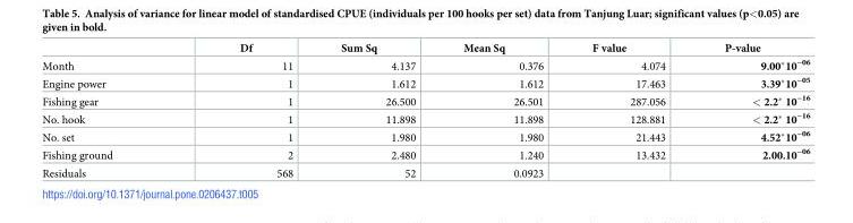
<table><thead><tr><td></td><td>Df</td><td>Sum Sq</td><td>Mean Sq</td><td>F value</td><td>P-value</td></tr></thead><tbody><tr><td>Month</td><td>11</td><td>4.137</td><td>0.376</td><td>4.074</td><td>9.00*10<sup>−06</sup></td></tr><tr><td>Engine power</td><td>1</td><td>1.612</td><td>1.612</td><td>17.463</td><td>3.39*10<sup>−05</sup></td></tr><tr><td>Fishing gear</td><td>1</td><td>26.500</td><td>26.501</td><td>287.056</td><td>&lt; 2.2* 10<sup>−16</sup></td></tr><tr><td>No. hook</td><td>1</td><td>11.898</td><td>11.898</td><td>128.881</td><td>&lt; 2.2* 10<sup>−16</sup></td></tr><tr><td>No. set</td><td>1</td><td>1.980</td><td>1.980</td><td>21.443</td><td>4.52*10<sup>−06</sup></td></tr><tr><td>Fishing ground</td><td>2</td><td>2.480</td><td>1.240</td><td>13.432</td><td>2.00.10<sup>−06</sup></td></tr><tr><td>Residuals</td><td>568</td><td>52</td><td>0.0923</td><td></td><td></td></tr></tbody></table>